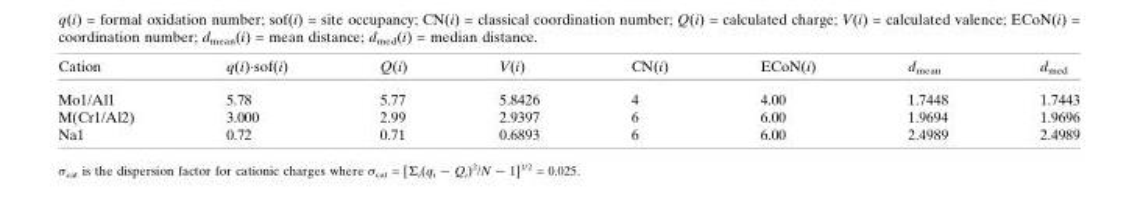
<table><thead><tr><td>Cation</td><td>q(i)·sof(i)</td><td>Q(i)</td><td>V(i)</td><td>CN(i)</td><td>ECoN(i)</td><td>d<sub>mean</sub></td><td>d<sub>med</sub></td></tr></thead><tbody><tr><td>Mo1/Al1</td><td>5.78</td><td>5.77</td><td>5.8426</td><td>4</td><td>4.00</td><td>1.7448</td><td>1.7443</td></tr><tr><td>M(Cr1/Al2)</td><td>3.000</td><td>2.99</td><td>2.9397</td><td>6</td><td>6.00</td><td>1.9694</td><td>1.9696</td></tr><tr><td>Na1</td><td>0.72</td><td>0.71</td><td>0.6893</td><td>6</td><td>6.00</td><td>2.4989</td><td>2.4989</td></tr></tbody></table>